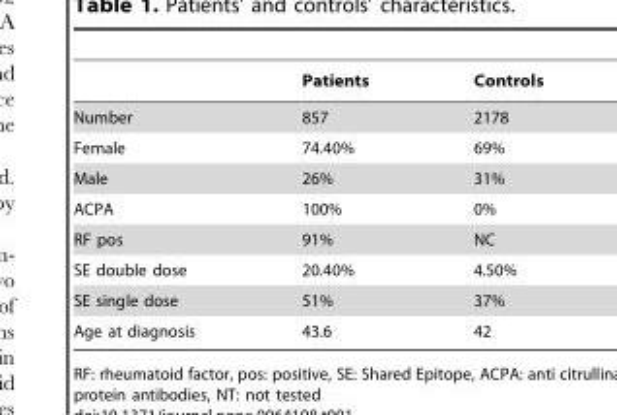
<table><thead><tr><td></td><td>Patients</td><td>Controls</td></tr></thead><tbody><tr><td>Number</td><td>857</td><td>2178</td></tr><tr><td>Female</td><td>74.40%</td><td>69%</td></tr><tr><td>Male</td><td>26%</td><td>31%</td></tr><tr><td>ACPA</td><td>100%</td><td>0%</td></tr><tr><td>RF pos</td><td>91%</td><td>NC</td></tr><tr><td>SE double dose</td><td>20.40%</td><td>4.50%</td></tr><tr><td>SE single dose</td><td>51%</td><td>37%</td></tr><tr><td>Age at diagnosis</td><td>43.6</td><td>42</td></tr></tbody></table>